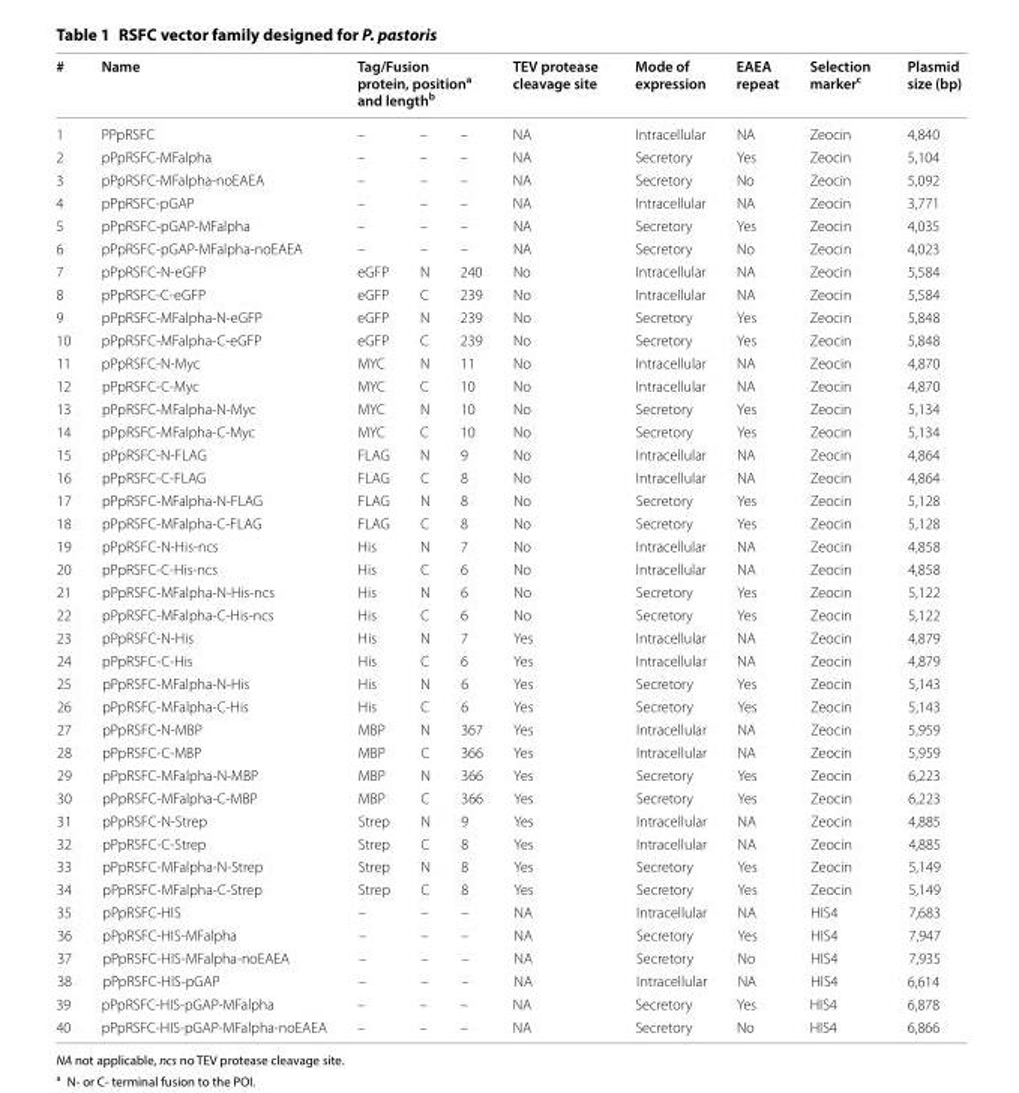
<table><thead><tr><td rowspan="2"># 1</td><td rowspan="2">Name PPpRSFC</td><td colspan="3">Tag/Fusion protein, position<sup>a</sup> and length<sup>b</sup></td><td rowspan="2">TEV protease cleavage site NA</td><td rowspan="2">Mode of expression Intracellular</td><td rowspan="2">EAEA repeat NA</td><td rowspan="2">Selection marker<sup>c</sup> Zeocin</td><td rowspan="2">Plasmid size (bp) 4,840</td></tr><tr><td>–</td><td>–</td><td>–</td></tr></thead><tbody><tr><td>2</td><td>pPpRSFC-MFalpha</td><td>–</td><td>–</td><td>–</td><td>NA</td><td>Secretory</td><td>Yes</td><td>Zeocin</td><td>5,104</td></tr><tr><td>3</td><td>pPpRSFC-MFalpha-noEAEA</td><td>–</td><td>–</td><td>–</td><td>NA</td><td>Secretory</td><td>No</td><td>Zeocin</td><td>5,092</td></tr><tr><td>4</td><td>pPpRSFC-pGAP</td><td>–</td><td>–</td><td>–</td><td>NA</td><td>Intracellular</td><td>NA</td><td>Zeocin</td><td>3,771</td></tr><tr><td>5</td><td>pPpRSFC-pGAP-MFalpha</td><td>–</td><td>–</td><td>–</td><td>NA</td><td>Secretory</td><td>Yes</td><td>Zeocin</td><td>4,035</td></tr><tr><td>6</td><td>pPpRSFC-pGAP-MFalpha-noEAEA</td><td>–</td><td>–</td><td>–</td><td>NA</td><td>Secretory</td><td>No</td><td>Zeocin</td><td>4,023</td></tr><tr><td>7</td><td>pPpRSFC-N-eGFP</td><td>eGFP</td><td>N</td><td>240</td><td>No</td><td>Intracellular</td><td>NA</td><td>Zeocin</td><td>5,584</td></tr><tr><td>8</td><td>pPpRSFC-C-eGFP</td><td>eGFP</td><td>C</td><td>239</td><td>No</td><td>Intracellular</td><td>NA</td><td>Zeocin</td><td>5,584</td></tr><tr><td>9</td><td>pPpRSFC-MFalpha-N-eGFP</td><td>eGFP</td><td>N</td><td>239</td><td>No</td><td>Secretory</td><td>Yes</td><td>Zeocin</td><td>5,848</td></tr><tr><td>10</td><td>pPpRSFC-MFalpha-C-eGFP</td><td>eGFP</td><td>C</td><td>239</td><td>No</td><td>Secretory</td><td>Yes</td><td>Zeocin</td><td>5,848</td></tr><tr><td>11</td><td>pPpRSFC-N-Myc</td><td>MYC</td><td>N</td><td>11</td><td>No</td><td>Intracellular</td><td>NA</td><td>Zeocin</td><td>4,870</td></tr><tr><td>12</td><td>pPpRSFC-C-Myc</td><td>MYC</td><td>C</td><td>10</td><td>No</td><td>Intracellular</td><td>NA</td><td>Zeocin</td><td>4,870</td></tr><tr><td>13</td><td>pPpRSFC-MFalpha-N-Myc</td><td>MYC</td><td>N</td><td>10</td><td>No</td><td>Secretory</td><td>Yes</td><td>Zeocin</td><td>5,134</td></tr><tr><td>14</td><td>pPpRSFC-MFalpha-C-Myc</td><td>MYC</td><td>C</td><td>10</td><td>No</td><td>Secretory</td><td>Yes</td><td>Zeocin</td><td>5,134</td></tr><tr><td>15</td><td>pPpRSFC-N-FLAG</td><td>FLAG</td><td>N</td><td>9</td><td>No</td><td>Intracellular</td><td>NA</td><td>Zeocin</td><td>4,864</td></tr><tr><td>16</td><td>pPpRSFC-C-FLAG</td><td>FLAG</td><td>C</td><td>8</td><td>No</td><td>Intracellular</td><td>NA</td><td>Zeocin</td><td>4,864</td></tr><tr><td>17</td><td>pPpRSFC-MFalpha-N-FLAG</td><td>FLAG</td><td>N</td><td>8</td><td>No</td><td>Secretory</td><td>Yes</td><td>Zeocin</td><td>5,128</td></tr><tr><td>18</td><td>pPpRSFC-MFalpha-C-FLAG</td><td>FLAG</td><td>C</td><td>8</td><td>No</td><td>Secretory</td><td>Yes</td><td>Zeocin</td><td>5,128</td></tr><tr><td>19</td><td>pPpRSFC-N-His-ncs</td><td>His</td><td>N</td><td>7</td><td>No</td><td>Intracellular</td><td>NA</td><td>Zeocin</td><td>4,858</td></tr><tr><td>20</td><td>pPpRSFC-C-His-ncs</td><td>His</td><td>C</td><td>6</td><td>No</td><td>Intracellular</td><td>NA</td><td>Zeocin</td><td>4,858</td></tr><tr><td>21</td><td>pPpRSFC-MFalpha-N-His-ncs</td><td>His</td><td>N</td><td>6</td><td>No</td><td>Secretory</td><td>Yes</td><td>Zeocin</td><td>5,122</td></tr><tr><td>22</td><td>pPpRSFC-MFalpha-C-His-ncs</td><td>His</td><td>C</td><td>6</td><td>No</td><td>Secretory</td><td>Yes</td><td>Zeocin</td><td>5,122</td></tr><tr><td>23</td><td>pPpRSFC-N-His</td><td>His</td><td>N</td><td>7</td><td>Yes</td><td>Intracellular</td><td>NA</td><td>Zeocin</td><td>4,879</td></tr><tr><td>24</td><td>pPpRSFC-C-His</td><td>His</td><td>C</td><td>6</td><td>Yes</td><td>Intracellular</td><td>NA</td><td>Zeocin</td><td>4,879</td></tr><tr><td>25</td><td>pPpRSFC-MFalpha-N-His</td><td>His</td><td>N</td><td>6</td><td>Yes</td><td>Secretory</td><td>Yes</td><td>Zeocin</td><td>5,143</td></tr><tr><td>26</td><td>pPpRSFC-MFalpha-C-His</td><td>His</td><td>C</td><td>6</td><td>Yes</td><td>Secretory</td><td>Yes</td><td>Zeocin</td><td>5,143</td></tr><tr><td>27</td><td>pPpRSFC-N-MBP</td><td>MBP</td><td>N</td><td>367</td><td>Yes</td><td>Intracellular</td><td>NA</td><td>Zeocin</td><td>5,959</td></tr><tr><td>28</td><td>pPpRSFC-C-MBP</td><td>MBP</td><td>C</td><td>366</td><td>Yes</td><td>Intracellular</td><td>NA</td><td>Zeocin</td><td>5,959</td></tr><tr><td>29</td><td>pPpRSFC-MFalpha-N-MBP</td><td>MBP</td><td>N</td><td>366</td><td>Yes</td><td>Secretory</td><td>Yes</td><td>Zeocin</td><td>6,223</td></tr><tr><td>30</td><td>pPpRSFC-MFalpha-C-MBP</td><td>MBP</td><td>C</td><td>366</td><td>Yes</td><td>Secretory</td><td>Yes</td><td>Zeocin</td><td>6,223</td></tr><tr><td>31</td><td>pPpRSFC-N-Strep</td><td>Strep</td><td>N</td><td>9</td><td>Yes</td><td>Intracellular</td><td>NA</td><td>Zeocin</td><td>4,885</td></tr><tr><td>32</td><td>pPpRSFC-C-Strep</td><td>Strep</td><td>C</td><td>8</td><td>Yes</td><td>Intracellular</td><td>NA</td><td>Zeocin</td><td>4,885</td></tr><tr><td>33</td><td>pPpRSFC-MFalpha-N-Strep</td><td>Strep</td><td>N</td><td>8</td><td>Yes</td><td>Secretory</td><td>Yes</td><td>Zeocin</td><td>5,149</td></tr><tr><td>34</td><td>pPpRSFC-MFalpha-C-Strep</td><td>Strep</td><td>C</td><td>8</td><td>Yes</td><td>Secretory</td><td>Yes</td><td>Zeocin</td><td>5,149</td></tr><tr><td>35</td><td>pPpRSFC-HIS</td><td>–</td><td>–</td><td>–</td><td>NA</td><td>Intracellular</td><td>NA</td><td>HIS4</td><td>7,683</td></tr><tr><td>36</td><td>pPpRSFC-HIS-MFalpha</td><td>–</td><td>–</td><td>–</td><td>NA</td><td>Secretory</td><td>Yes</td><td>HIS4</td><td>7,947</td></tr><tr><td>37</td><td>pPpRSFC-HIS-MFalpha-noEAEA</td><td>–</td><td>–</td><td>–</td><td>NA</td><td>Secretory</td><td>No</td><td>HIS4</td><td>7,935</td></tr><tr><td>38</td><td>pPpRSFC-HIS-pGAP</td><td>–</td><td>–</td><td>–</td><td>NA</td><td>Intracellular</td><td>NA</td><td>HIS4</td><td>6,614</td></tr><tr><td>39</td><td>pPpRSFC-HIS-pGAP-MFalpha</td><td>–</td><td>–</td><td>–</td><td>NA</td><td>Secretory</td><td>Yes</td><td>HIS4</td><td>6,878</td></tr><tr><td>40</td><td>pPpRSFC-HIS-pGAP-MFalpha-noEAEA</td><td>–</td><td>–</td><td>–</td><td>NA</td><td>Secretory</td><td>No</td><td>HIS4</td><td>6,866</td></tr></tbody></table>